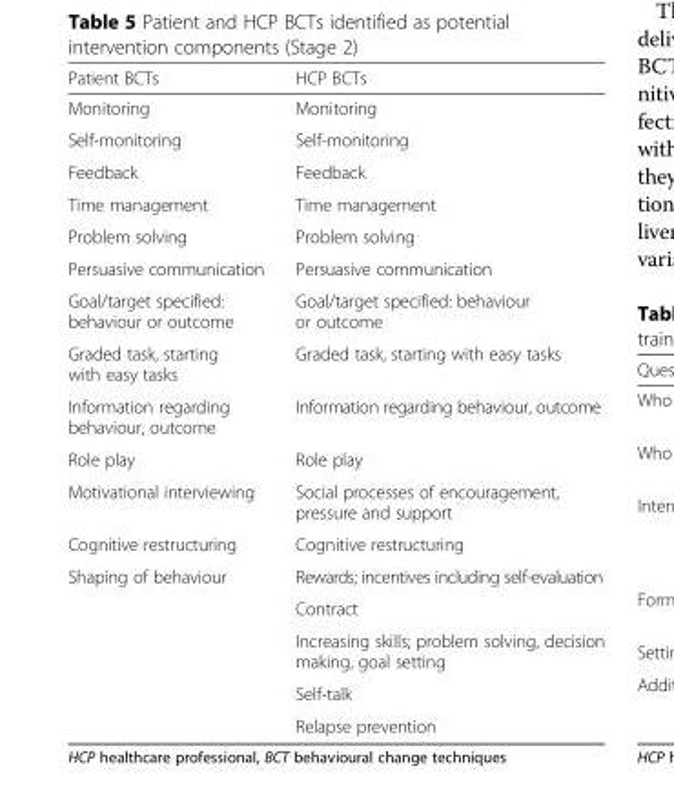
<table><thead><tr><td>Patient BCTs</td><td>HCP BCTs</td></tr></thead><tbody><tr><td>Monitoring</td><td>Monitoring</td></tr><tr><td>Self-monitoring</td><td>Self-monitoring</td></tr><tr><td>Feedback</td><td>Feedback</td></tr><tr><td>Time management</td><td>Time management</td></tr><tr><td>Problem solving</td><td>Problem solving</td></tr><tr><td>Persuasive communication</td><td>Persuasive communication</td></tr><tr><td>Goal/target specified: behaviour or outcome</td><td>Goal/target specified: behaviour or outcome</td></tr><tr><td>Graded task, starting with easy tasks</td><td>Graded task, starting with easy tasks</td></tr><tr><td>Information regarding behaviour, outcome</td><td>Information regarding behaviour, outcome</td></tr><tr><td>Role play</td><td>Role play</td></tr><tr><td>Motivational interviewing</td><td>Social processes of encouragement, pressure and support</td></tr><tr><td>Cognitive restructuring</td><td>Cognitive restructuring</td></tr><tr><td rowspan="5">Shaping of behaviour</td><td>Rewards; incentives including self-evaluation</td></tr><tr><td>Contract</td></tr><tr><td>Increasing skills; problem solving, decision making, goal setting</td></tr><tr><td>Self-talk</td></tr><tr><td>Relapse prevention</td></tr></tbody></table>